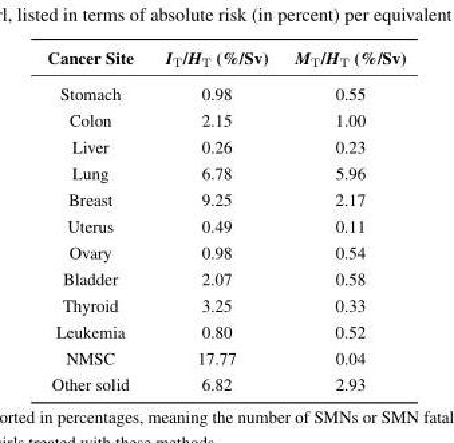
<table><thead><tr><td>Cancer Site</td><td>I<sub>T</sub>/H<sub>T</sub> (%/Sv)</td><td>M<sub>T</sub>/H<sub>T</sub> (%/Sv)</td></tr></thead><tbody><tr><td>Stomach</td><td>0.98</td><td>0.55</td></tr><tr><td>Colon</td><td>2.15</td><td>1.00</td></tr><tr><td>Liver</td><td>0.26</td><td>0.23</td></tr><tr><td>Lung</td><td>6.78</td><td>5.96</td></tr><tr><td>Breast</td><td>9.25</td><td>2.17</td></tr><tr><td>Uterus</td><td>0.49</td><td>0.11</td></tr><tr><td>Ovary</td><td>0.98</td><td>0.54</td></tr><tr><td>Bladder</td><td>2.07</td><td>0.58</td></tr><tr><td>Thyroid</td><td>3.25</td><td>0.33</td></tr><tr><td>Leukemia</td><td>0.80</td><td>0.52</td></tr><tr><td>NMSC</td><td>17.77</td><td>0.04</td></tr><tr><td>Other solid</td><td>6.82</td><td>2.93</td></tr></tbody></table>